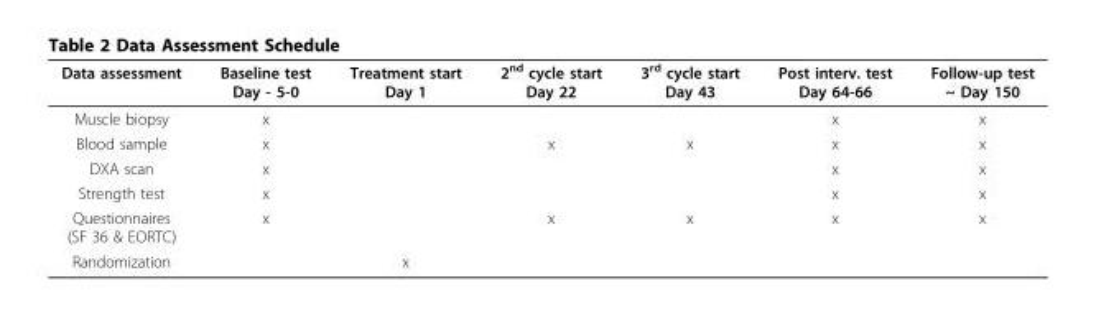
<table><thead><tr><td>Data assessment</td><td>Baseline test Day - 5-0</td><td>Treatment start Day 1</td><td>2<sup>nd</sup> cycle start Day 22</td><td>3<sup>rd</sup> cycle start Day 43</td><td>Post interv. test Day 64-66</td><td>Follow-up test ~ Day 150</td></tr></thead><tbody><tr><td>Muscle biopsy</td><td>x</td><td></td><td></td><td></td><td>x</td><td>x</td></tr><tr><td>Blood sample</td><td>x</td><td></td><td>x</td><td>x</td><td>x</td><td>x</td></tr><tr><td>DXA scan</td><td>x</td><td></td><td></td><td></td><td>x</td><td>x</td></tr><tr><td>Strength test</td><td>x</td><td></td><td></td><td></td><td>x</td><td>x</td></tr><tr><td>Questionnaires (SF 36 &amp; EORTC)</td><td>x</td><td></td><td>x</td><td>x</td><td>x</td><td>x</td></tr><tr><td>Randomization</td><td></td><td>x</td><td></td><td></td><td></td><td></td></tr></tbody></table>